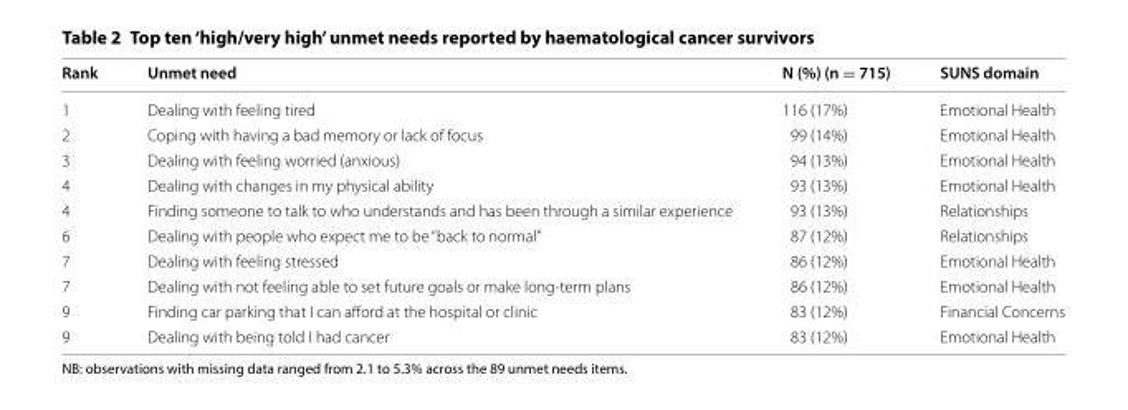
<table><thead><tr><td>Rank</td><td>Unmet need</td><td>N (%) (n = 715)</td><td>SUNS domain</td></tr></thead><tbody><tr><td>1</td><td>Dealing with feeling tired</td><td>116 (17%)</td><td>Emotional Health</td></tr><tr><td>2</td><td>Coping with having a bad memory or lack of focus</td><td>99 (14%)</td><td>Emotional Health</td></tr><tr><td>3</td><td>Dealing with feeling worried (anxious)</td><td>94 (13%)</td><td>Emotional Health</td></tr><tr><td>4</td><td>Dealing with changes in my physical ability</td><td>93 (13%)</td><td>Emotional Health</td></tr><tr><td>4</td><td>Finding someone to talk to who understands and has been through a similar experience</td><td>93 (13%)</td><td>Relationships</td></tr><tr><td>6</td><td>Dealing with people who expect me to be “back to normal”</td><td>87 (12%)</td><td>Relationships</td></tr><tr><td>7</td><td>Dealing with feeling stressed</td><td>86 (12%)</td><td>Emotional Health</td></tr><tr><td>7</td><td>Dealing with not feeling able to set future goals or make long‑term plans</td><td>86 (12%)</td><td>Emotional Health</td></tr><tr><td>9</td><td>Finding car parking that I can afford at the hospital or clinic</td><td>83 (12%)</td><td>Financial Concerns</td></tr><tr><td>9</td><td>Dealing with being told I had cancer</td><td>83 (12%)</td><td>Emotional Health</td></tr></tbody></table>